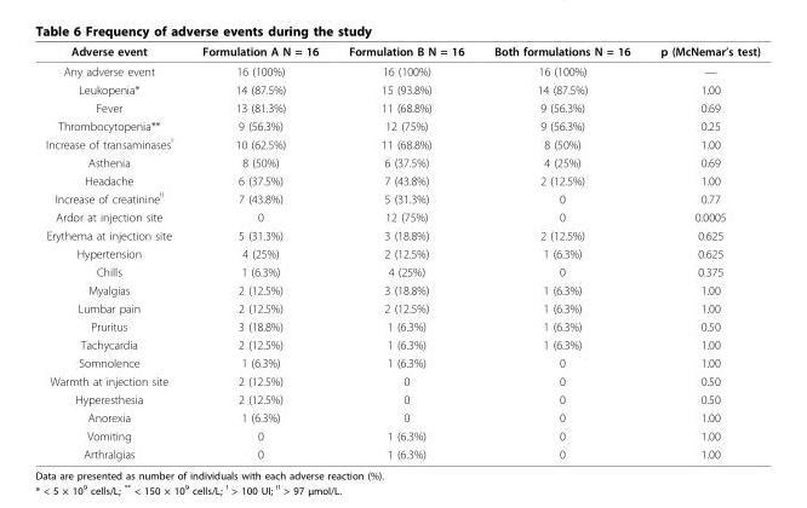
<table><thead><tr><td>Adverse event</td><td>Formulation A N = 16</td><td>Formulation B N = 16</td><td>Both formulations N = 16</td><td>p (McNemar’s test)</td></tr></thead><tbody><tr><td>Any adverse event</td><td>16 (100%)</td><td>16 (100%)</td><td>16 (100%)</td><td>—</td></tr><tr><td>Leukopenia*</td><td>14 (87.5%)</td><td>15 (93.8%)</td><td>14 (87.5%)</td><td>1.00</td></tr><tr><td>Fever</td><td>13 (81.3%)</td><td>11 (68.8%)</td><td>9 (56.3%)</td><td>0.69</td></tr><tr><td>Thrombocytopenia**</td><td>9 (56.3%)</td><td>12 (75%)</td><td>9 (56.3%)</td><td>0.25</td></tr><tr><td>Increase of transaminases<sup>!</sup></td><td>10 (62.5%)</td><td>11 (68.8%)</td><td>8 (50%)</td><td>1.00</td></tr><tr><td>Asthenia</td><td>8 (50%)</td><td>6 (37.5%)</td><td>4 (25%)</td><td>0.69</td></tr><tr><td>Headache</td><td>6 (37.5%)</td><td>7 (43.8%)</td><td>2 (12.5%)</td><td>1.00</td></tr><tr><td>Increase of creatinine<sup>!!</sup></td><td>7 (43.8%)</td><td>5 (31.3%)</td><td>0</td><td>0.77</td></tr><tr><td>Ardor at injection site</td><td>0</td><td>12 (75%)</td><td>0</td><td>0.0005</td></tr><tr><td>Erythema at injection site</td><td>5 (31.3%)</td><td>3 (18.8%)</td><td>2 (12.5%)</td><td>0.625</td></tr><tr><td>Hypertension</td><td>4 (25%)</td><td>2 (12.5%)</td><td>1 (6.3%)</td><td>0.625</td></tr><tr><td>Chills</td><td>1 (6.3%)</td><td>4 (25%)</td><td>0</td><td>0.375</td></tr><tr><td>Myalgias</td><td>2 (12.5%)</td><td>3 (18.8%)</td><td>1 (6.3%)</td><td>1.00</td></tr><tr><td>Lumbar pain</td><td>2 (12.5%)</td><td>2 (12.5%)</td><td>1 (6.3%)</td><td>1.00</td></tr><tr><td>Pruritus</td><td>3 (18.8%)</td><td>1 (6.3%)</td><td>1 (6.3%)</td><td>0.50</td></tr><tr><td>Tachycardia</td><td>2 (12.5%)</td><td>1 (6.3%)</td><td>1 (6.3%)</td><td>1.00</td></tr><tr><td>Somnolence</td><td>1 (6.3%)</td><td>1 (6.3%)</td><td>0</td><td>1.00</td></tr><tr><td>Warmth at injection site</td><td>2 (12.5%)</td><td>0</td><td>0</td><td>0.50</td></tr><tr><td>Hyperesthesia</td><td>2 (12.5%)</td><td>0</td><td>0</td><td>0.50</td></tr><tr><td>Anorexia</td><td>1 (6.3%)</td><td>0</td><td>0</td><td>1.00</td></tr><tr><td>Vomiting</td><td>0</td><td>1 (6.3%)</td><td>0</td><td>1.00</td></tr><tr><td>Arthralgias</td><td>0</td><td>1 (6.3%)</td><td>0</td><td>1.00</td></tr></tbody></table>